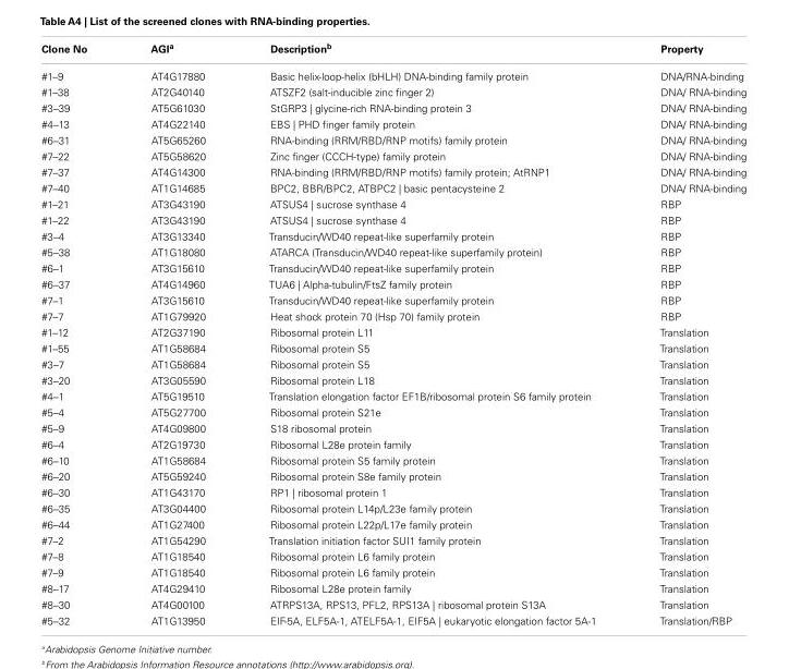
<table><thead><tr><td>Clone No</td><td>AGI<sup>a</sup></td><td>Description<sup>b</sup></td><td>Property</td></tr></thead><tbody><tr><td>#1–9</td><td>AT4G17880</td><td>Basic helix-loop-helix (bHLH) DNA-binding family protein</td><td>DNA/RNA-binding</td></tr><tr><td>#1–38</td><td>AT2G40140</td><td>ATSZF2 (salt-inducible zinc finger 2)</td><td>DNA/ RNA-binding</td></tr><tr><td>#3–39</td><td>AT5G61030</td><td>StGRP3 | glycine-rich RNA-binding protein 3</td><td>DNA/ RNA-binding</td></tr><tr><td>#4–13</td><td>AT4G22140</td><td>EBS | PHD finger family protein</td><td>DNA/ RNA-binding</td></tr><tr><td>#6–31</td><td>AT5G65260</td><td>RNA-binding (RRM/RBD/RNP motifs) family protein</td><td>DNA/ RNA-binding</td></tr><tr><td>#7–22</td><td>AT5G58620</td><td>Zinc finger (CCCH-type) family protein</td><td>DNA/ RNA-binding</td></tr><tr><td>#7–37</td><td>AT4G14300</td><td>RNA-binding (RRM/RBD/RNP motifs) family protein; AtRNP1</td><td>DNA/ RNA-binding</td></tr><tr><td>#7–40</td><td>AT1G14685</td><td>BPC2, BBR/BPC2, ATBPC2 | basic pentacysteine 2</td><td>DNA/ RNA-binding</td></tr><tr><td>#1–21</td><td>AT3G43190</td><td>ATSUS4 | sucrose synthase 4</td><td>RBP</td></tr><tr><td>#1–22</td><td>AT3G43190</td><td>ATSUS4 | sucrose synthase 4</td><td>RBP</td></tr><tr><td>#3–4</td><td>AT3G13340</td><td>Transducin/WD40 repeat-like superfamily protein</td><td>RBP</td></tr><tr><td>#5–38</td><td>AT1G18080</td><td>ATARCA (Transducin/WD40 repeat-like superfamily protein)</td><td>RBP</td></tr><tr><td>#6–1</td><td>AT3G15610</td><td>Transducin/WD40 repeat-like superfamily protein</td><td>RBP</td></tr><tr><td>#6–37</td><td>AT4G14960</td><td>TUA6 | Alpha-tubulin/FtsZ family protein</td><td>RBP</td></tr><tr><td>#7–1</td><td>AT3G15610</td><td>Transducin/WD40 repeat-like superfamily protein</td><td>RBP</td></tr><tr><td>#7–7</td><td>AT1G79920</td><td>Heat shock protein 70 (Hsp 70) family protein</td><td>RBP</td></tr><tr><td>#1–12</td><td>AT2G37190</td><td>Ribosomal protein L11</td><td>Translation</td></tr><tr><td>#1–55</td><td>AT1G58684</td><td>Ribosomal protein S5</td><td>Translation</td></tr><tr><td>#3–7</td><td>AT1G58684</td><td>Ribosomal protein S5</td><td>Translation</td></tr><tr><td>#3–20</td><td>AT3G05590</td><td>Ribosomal protein L18</td><td>Translation</td></tr><tr><td>#4–1</td><td>AT5G19510</td><td>Translation elongation factor EF1B/ribosomal protein S6 family protein</td><td>Translation</td></tr><tr><td>#5–4</td><td>AT5G27700</td><td>Ribosomal protein S21e</td><td>Translation</td></tr><tr><td>#5–9</td><td>AT4G09800</td><td>S18 ribosomal protein</td><td>Translation</td></tr><tr><td>#6–4</td><td>AT2G19730</td><td>Ribosomal L28e protein family</td><td>Translation</td></tr><tr><td>#6–10</td><td>AT1G58684</td><td>Ribosomal protein S5 family protein</td><td>Translation</td></tr><tr><td>#6–20</td><td>AT5G59240</td><td>Ribosomal protein S8e family protein</td><td>Translation</td></tr><tr><td>#6–30</td><td>AT1G43170</td><td>RP1 | ribosomal protein 1</td><td>Translation</td></tr><tr><td>#6–35</td><td>AT3G04400</td><td>Ribosomal protein L14p/L23e family protein</td><td>Translation</td></tr><tr><td>#6–44</td><td>AT1G27400</td><td>Ribosomal protein L22p/L17e family protein</td><td>Translation</td></tr><tr><td>#7–2</td><td>AT1G54290</td><td>Translation initiation factor SUI1 family protein</td><td>Translation</td></tr><tr><td>#7–8</td><td>AT1G18540</td><td>Ribosomal protein L6 family protein</td><td>Translation</td></tr><tr><td>#7–9</td><td>AT1G18540</td><td>Ribosomal protein L6 family protein</td><td>Translation</td></tr><tr><td>#8–17</td><td>AT4G29410</td><td>Ribosomal L28e protein family</td><td>Translation</td></tr><tr><td>#8–30</td><td>AT4G00100</td><td>ATRPS13A, RPS13, PFL2, RPS13A | ribosomal protein S13A</td><td>Translation</td></tr><tr><td>#5–32</td><td>AT1G13950</td><td>EIF-5A, ELF5A-1, ATELF5A-1, EIF5A | eukaryotic elongation factor 5A-1</td><td>Translation/RBP</td></tr></tbody></table>